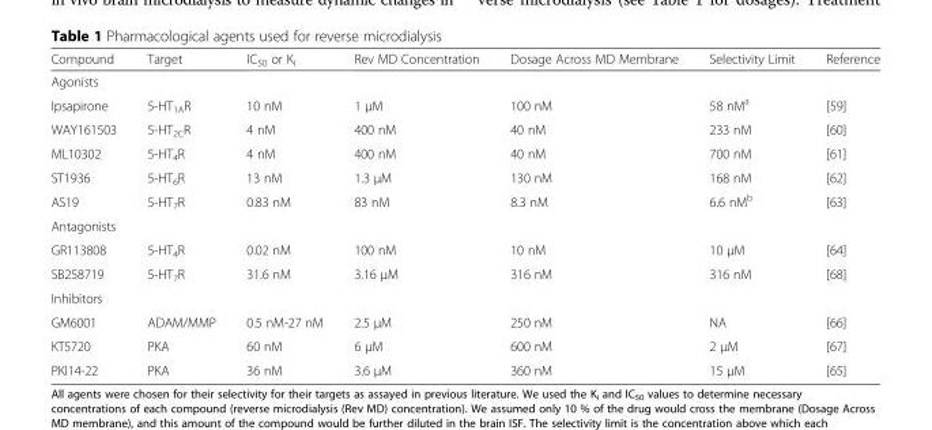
<table><thead><tr><td>Compound</td><td>Target</td><td>IC<sub>50</sub> or K<sub>i</sub></td><td>Rev MD Concentration</td><td>Dosage Across MD Membrane</td><td>Selectivity Limit</td><td>Reference</td></tr></thead><tbody><tr><td colspan="7">Agonists</td></tr><tr><td>Ipsapirone</td><td>5-HT<sub>1A</sub>R</td><td>10 nM</td><td>1 μM</td><td>100 nM</td><td>58 nM<sup>a</sup></td><td>[59]</td></tr><tr><td>WAY161503</td><td>5-HT<sub>2C</sub>R</td><td>4 nM</td><td>400 nM</td><td>40 nM</td><td>233 nM</td><td>[60]</td></tr><tr><td>ML10302</td><td>5-HT<sub>4</sub>R</td><td>4 nM</td><td>400 nM</td><td>40 nM</td><td>700 nM</td><td>[61]</td></tr><tr><td>ST1936</td><td>5-HT<sub>6</sub>R</td><td>13 nM</td><td>1.3 μM</td><td>130 nM</td><td>168 nM</td><td>[62]</td></tr><tr><td>AS19</td><td>5-HT<sub>7</sub>R</td><td>0.83 nM</td><td>83 nM</td><td>8.3 nM</td><td>6.6 nM<sup>b</sup></td><td>[63]</td></tr><tr><td colspan="7">Antagonists</td></tr><tr><td>GR113808</td><td>5-HT<sub>4</sub>R</td><td>0.02 nM</td><td>100 nM</td><td>10 nM</td><td>10 μM</td><td>[64]</td></tr><tr><td>SB258719</td><td>5-HT<sub>7</sub>R</td><td>31.6 nM</td><td>3.16 μM</td><td>316 nM</td><td>316 nM</td><td>[68]</td></tr><tr><td colspan="7">Inhibitors</td></tr><tr><td>GM6001</td><td>ADAM/MMP</td><td>0.5 nM-27 nM</td><td>2.5 μM</td><td>250 nM</td><td>NA</td><td>[66]</td></tr><tr><td>KT5720</td><td>PKA</td><td>60 nM</td><td>6 μM</td><td>600 nM</td><td>2 μM</td><td>[67]</td></tr><tr><td>PKI14-22</td><td>PKA</td><td>36 nM</td><td>3.6 μM</td><td>360 nM</td><td>15 μM</td><td>[65]</td></tr></tbody></table>